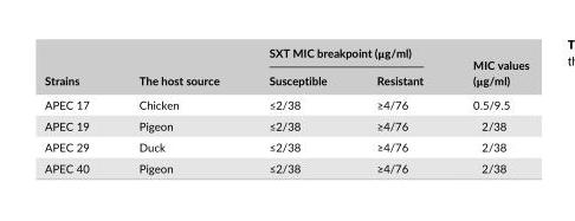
<table><thead><tr><td rowspan="2">Strains</td><td rowspan="2">The host source</td><td colspan="2">SXT MIC breakpoint (μg/ml)</td><td rowspan="2">MIC values (μg/ml)</td></tr><tr><td>Susceptible</td><td>Resistant</td></tr></thead><tbody><tr><td>APEC 17</td><td>Chicken</td><td>≤2/38</td><td>≥4/76</td><td>0.5/9.5</td></tr><tr><td>APEC 19</td><td>Pigeon</td><td>≤2/38</td><td>≥4/76</td><td>2/38</td></tr><tr><td>APEC 29</td><td>Duck</td><td>≤2/38</td><td>≥4/76</td><td>2/38</td></tr><tr><td>APEC 40</td><td>Pigeon</td><td>≤2/38</td><td>≥4/76</td><td>2/38</td></tr></tbody></table>